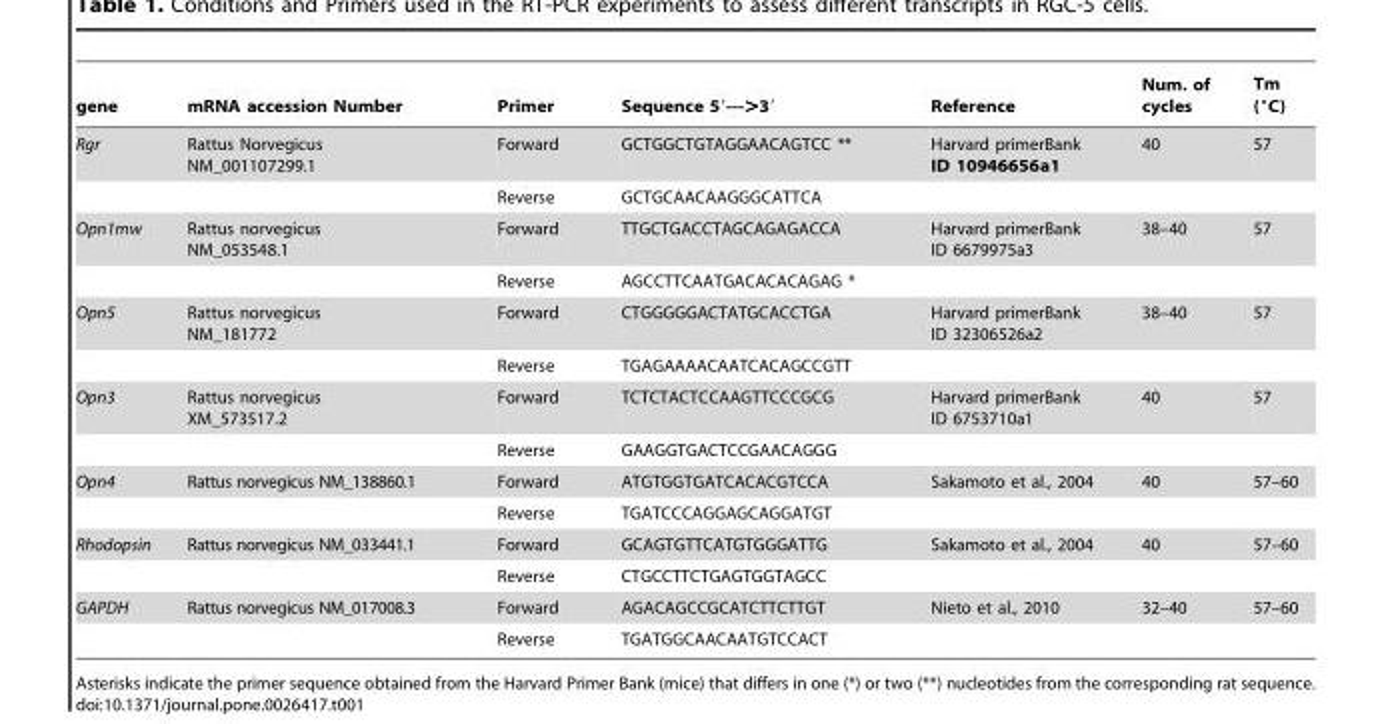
<table><thead><tr><td>gene</td><td>mRNA accession Number</td><td>Primer</td><td>Sequence 5′---&gt;3′</td><td>Reference</td><td>Num. of cycles</td><td>Tm (°C)</td></tr></thead><tbody><tr><td rowspan="2">Rgr</td><td>Rattus Norvegicus NM_001107299.1</td><td>Forward</td><td>GCTGGCTGTAGGAACAGTCC **</td><td>Harvard primerBank ID 10946656a1</td><td>40</td><td>57</td></tr><tr><td></td><td>Reverse</td><td>GCTGCAACAAGGGCATTCA</td><td></td><td></td><td></td></tr><tr><td rowspan="2">Opn1mw</td><td>Rattus norvegicus NM_053548.1</td><td>Forward</td><td>TTGCTGACCTAGCAGAGACCA</td><td>Harvard primerBank ID 6679975a3</td><td>38–40</td><td>57</td></tr><tr><td></td><td>Reverse</td><td>AGCCTTCAATGACACACAGAG *</td><td></td><td></td><td></td></tr><tr><td rowspan="2">Opn5</td><td>Rattus norvegicus NM_181772</td><td>Forward</td><td>CTGGGGGACTATGCACCTGA</td><td>Harvard primerBank ID 32306526a2</td><td>38–40</td><td>57</td></tr><tr><td></td><td>Reverse</td><td>TGAGAAAACAATCACAGCCGTT</td><td></td><td></td><td></td></tr><tr><td rowspan="2">Opn3</td><td>Rattus norvegicus XM_573517.2</td><td>Forward</td><td>TCTCTACTCCAAGTTCCCGCG</td><td>Harvard primerBank ID 6753710a1</td><td>40</td><td>57</td></tr><tr><td></td><td>Reverse</td><td>GAAGGTGACTCCGAACAGGG</td><td></td><td></td><td></td></tr><tr><td rowspan="2">Opn4</td><td>Rattus norvegicus NM_138860.1</td><td>Forward</td><td>ATGTGGTGATCACACGTCCA</td><td>Sakamoto et al., 2004</td><td>40</td><td>57–60</td></tr><tr><td></td><td>Reverse</td><td>TGATCCCAGGAGCAGGATGT</td><td></td><td></td><td></td></tr><tr><td rowspan="2">Rhodopsin</td><td>Rattus norvegicus NM_033441.1</td><td>Forward</td><td>GCAGTGTTCATGTGGGATTG</td><td>Sakamoto et al., 2004</td><td>40</td><td>57–60</td></tr><tr><td></td><td>Reverse</td><td>CTGCCTTCTGAGTGGTAGCC</td><td></td><td></td><td></td></tr><tr><td rowspan="2">GAPDH</td><td>Rattus norvegicus NM_017008.3</td><td>Forward</td><td>AGACAGCCGCATCTTCTTGT</td><td>Nieto et al., 2010</td><td>32–40</td><td>57–60</td></tr><tr><td></td><td>Reverse</td><td>TGATGGCAACAATGTCCACT</td><td></td><td></td><td></td></tr></tbody></table>